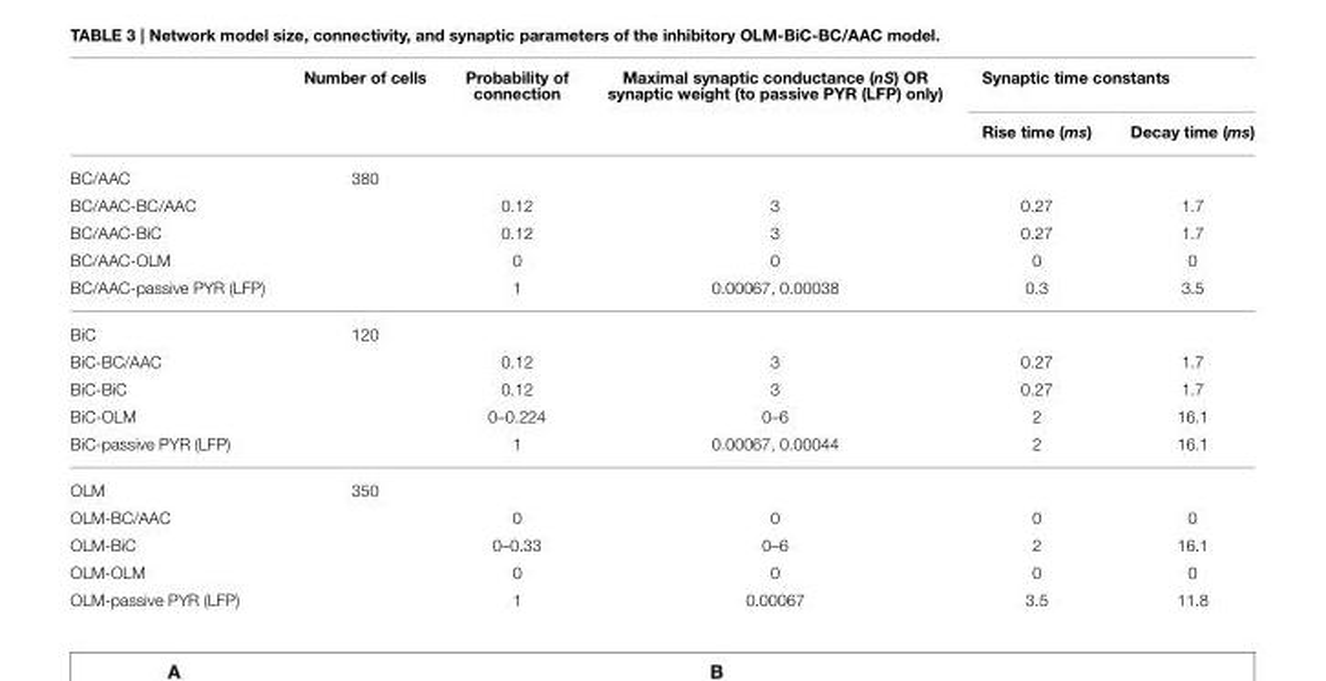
<table><thead><tr><td rowspan="2"></td><td rowspan="2">Number of cells</td><td rowspan="2">Probability of connection</td><td rowspan="2">Maximal synaptic conductance (nS) OR synaptic weight (to passive PYR (LFP) only)</td><td colspan="2">Synaptic time constants</td></tr><tr><td>Rise time (ms)</td><td>Decay time (ms)</td></tr></thead><tbody><tr><td>BC/AAC</td><td>380</td><td></td><td></td><td></td><td></td></tr><tr><td>BC/AAC-BC/AAC</td><td></td><td>0.12</td><td>3</td><td>0.27</td><td>1.7</td></tr><tr><td>BC/AAC-BiC</td><td></td><td>0.12</td><td>3</td><td>0.27</td><td>1.7</td></tr><tr><td>BC/AAC-OLM</td><td></td><td>0</td><td>0</td><td>0</td><td>0</td></tr><tr><td>BC/AAC-passive PYR (LFP)</td><td></td><td>1</td><td>0.00067, 0.00038</td><td>0.3</td><td>3.5</td></tr><tr><td>BiC</td><td>120</td><td></td><td></td><td></td><td></td></tr><tr><td>BiC-BC/AAC</td><td></td><td>0.12</td><td>3</td><td>0.27</td><td>1.7</td></tr><tr><td>BiC-BiC</td><td></td><td>0.12</td><td>3</td><td>0.27</td><td>1.7</td></tr><tr><td>BiC-OLM</td><td></td><td>0–0.224</td><td>0–6</td><td>2</td><td>16.1</td></tr><tr><td>BiC-passive PYR (LFP)</td><td></td><td>1</td><td>0.00067, 0.00044</td><td>2</td><td>16.1</td></tr><tr><td>OLM</td><td>350</td><td></td><td></td><td></td><td></td></tr><tr><td>OLM-BC/AAC</td><td></td><td>0</td><td>0</td><td>0</td><td>0</td></tr><tr><td>OLM-BiC</td><td></td><td>0–0.33</td><td>0–6</td><td>2</td><td>16.1</td></tr><tr><td>OLM-OLM</td><td></td><td>0</td><td>0</td><td>0</td><td>0</td></tr><tr><td>OLM-passive PYR (LFP)</td><td></td><td>1</td><td>0.00067</td><td>3.5</td><td>11.8</td></tr></tbody></table>